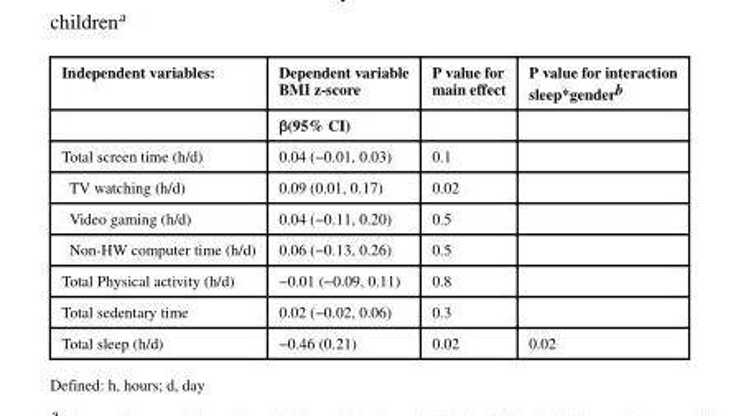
<table><thead><tr><td rowspan="2">Independent variables:</td><td rowspan="2">Dependent variable BMI z-score β(95% CI)</td><td rowspan="2">P value for main effect</td><td rowspan="2">P value for interaction sleep*gender<sup>b</sup></td></tr><tr></tr></thead><tbody><tr><td>Total screen time (h/d)</td><td>0.04 (−0.01, 0.03)</td><td>0.1</td><td></td></tr><tr><td>TV watching (h/d)</td><td>0.09 (0.01, 0.17)</td><td>0.02</td><td></td></tr><tr><td>Video gaming (h/d)</td><td>0.04 (−0.11, 0.20)</td><td>0.5</td><td></td></tr><tr><td>Non-HW computer time (h/d)</td><td>0.06 (−0.13, 0.26)</td><td>0.5</td><td></td></tr><tr><td>Total Physical activity (h/d)</td><td>−0.01 (−0.09, 0.11)</td><td>0.8</td><td></td></tr><tr><td>Total sedentary time</td><td>0.02 (−0.02, 0.06)</td><td>0.3</td><td></td></tr><tr><td>Total sleep (h/d)</td><td>−0.46 (0.21)</td><td>0.02</td><td>0.02</td></tr></tbody></table>